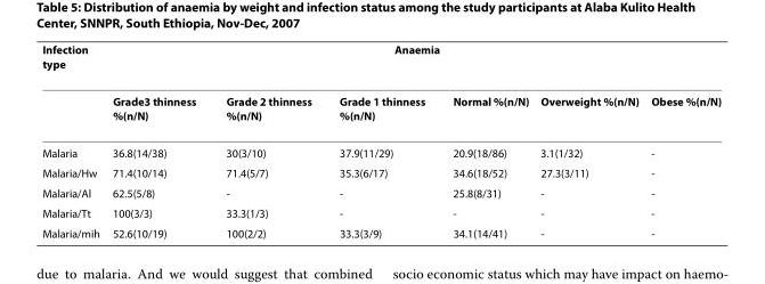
<table><thead><tr><td rowspan="2">Infection type</td><td colspan="6">Anaemia</td></tr><tr><td>Grade3 thinness %(n/N)</td><td>Grade 2 thinness %(n/N)</td><td>Grade 1 thinness %(n/N)</td><td>Normal %(n/N)</td><td>Overweight %(n/N)</td><td>Obese %(n/N)</td></tr></thead><tbody><tr><td>Malaria</td><td>36.8(14/38)</td><td>30(3/10)</td><td>37.9(11/29)</td><td>20.9(18/86)</td><td>3.1(1/32)</td><td>-</td></tr><tr><td>Malaria/Hw</td><td>71.4(10/14)</td><td>71.4(5/7)</td><td>35.3(6/17)</td><td>34.6(18/52)</td><td>27.3(3/11)</td><td>-</td></tr><tr><td>Malaria/Al</td><td>62.5(5/8)</td><td>-</td><td>-</td><td>25.8(8/31)</td><td>-</td><td>-</td></tr><tr><td>Malaria/Tt</td><td>100(3/3)</td><td>33.3(1/3)</td><td>-</td><td>-</td><td>-</td><td>-</td></tr><tr><td>Malaria/mih</td><td>52.6(10/19)</td><td>100(2/2)</td><td>33.3(3/9)</td><td>34.1(14/41)</td><td>-</td><td>-</td></tr></tbody></table>